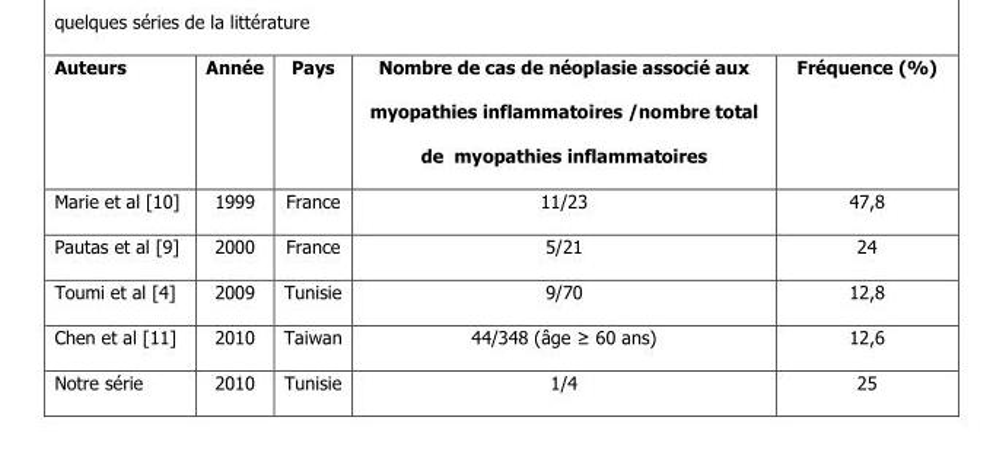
<table><thead><tr><td>Auteurs</td><td>Année</td><td>Pays</td><td>Nombre de cas de néoplasie associé aux myopathies inflammatoires /nombre total de myopathies inflammatoires</td><td>Fréquence (%)</td></tr></thead><tbody><tr><td>Marie et al [10]</td><td>1999</td><td>France</td><td>11/23</td><td>47,8</td></tr><tr><td>Pautas et al [9]</td><td>2000</td><td>France</td><td>5/21</td><td>24</td></tr><tr><td>Toumi et al [4]</td><td>2009</td><td>Tunisie</td><td>9/70</td><td>12,8</td></tr><tr><td>Chen et al [11]</td><td>2010</td><td>Taiwan</td><td>44/348 (âge ≥ 60 ans)</td><td>12,6</td></tr><tr><td>Notre série</td><td>2010</td><td>Tunisie</td><td>1/4</td><td>25</td></tr></tbody></table>